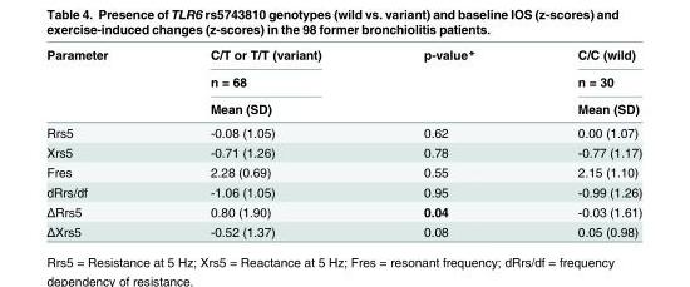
<table><thead><tr><td rowspan="3">Parameter</td><td rowspan="3">C/T or T/T (variant) n = 68 Mean (SD)</td><td rowspan="3">p-value*</td><td rowspan="3">C/C (wild) n = 30 Mean (SD)</td></tr><tr></tr><tr></tr></thead><tbody><tr><td>Rrs5</td><td>-0.08 (1.05)</td><td>0.62</td><td>0.00 (1.07)</td></tr><tr><td>Xrs5</td><td>-0.71 (1.26)</td><td>0.78</td><td>-0.77 (1.17)</td></tr><tr><td>Fres</td><td>2.28 (0.69)</td><td>0.55</td><td>2.15 (1.10)</td></tr><tr><td>dRrs/df</td><td>-1.06 (1.05)</td><td>0.95</td><td>-0.99 (1.26)</td></tr><tr><td>ΔRrs5</td><td>0.80 (1.90)</td><td>0.04</td><td>-0.03 (1.61)</td></tr><tr><td>ΔXrs5</td><td>-0.52 (1.37)</td><td>0.08</td><td>0.05 (0.98)</td></tr></tbody></table>